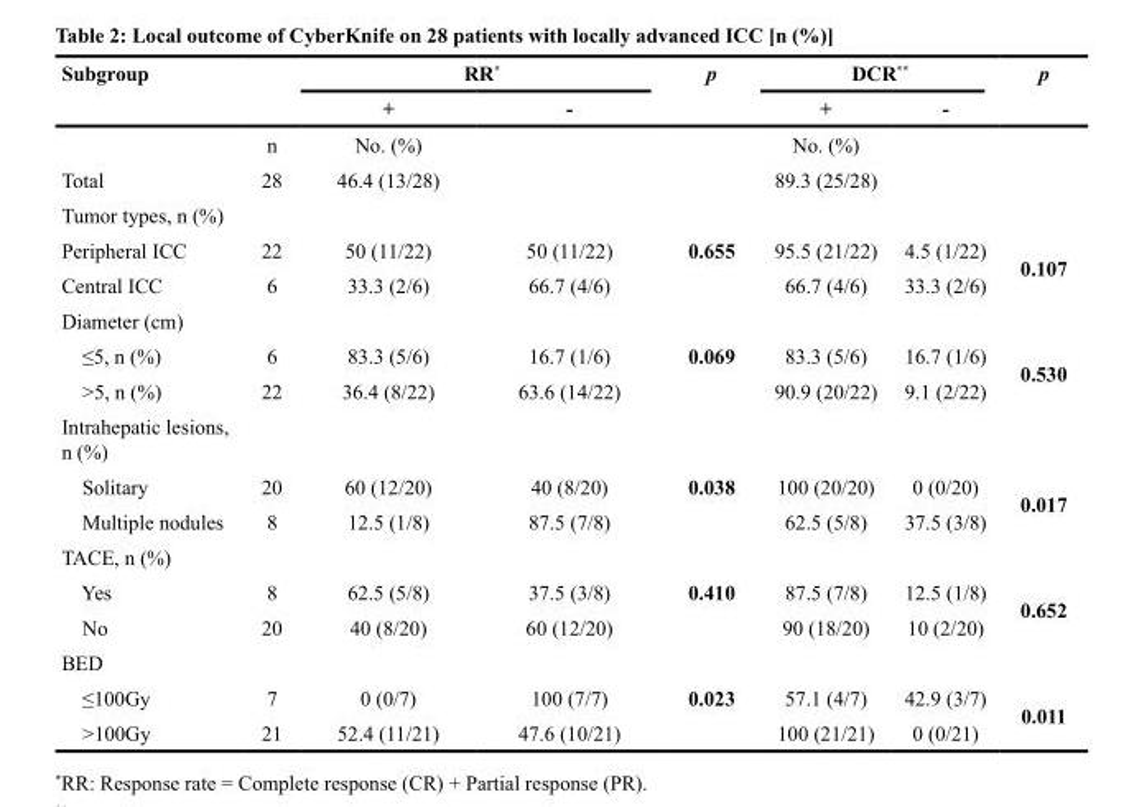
<table><thead><tr><td rowspan="2">Subgroup</td><td rowspan="2"></td><td colspan="2">RR*</td><td rowspan="2">p</td><td colspan="2">DCR**</td><td rowspan="2">p</td></tr><tr><td>+</td><td>-</td><td>+</td><td>-</td></tr></thead><tbody><tr><td></td><td>n</td><td>No. (%)</td><td></td><td></td><td>No. (%)</td><td></td><td></td></tr><tr><td>Total</td><td>28</td><td>46.4 (13/28)</td><td></td><td></td><td>89.3 (25/28)</td><td></td><td></td></tr><tr><td colspan="8">Tumor types, n (%)</td></tr><tr><td>Peripheral ICC</td><td>22</td><td>50 (11/22)</td><td>50 (11/22)</td><td>0.655</td><td>95.5 (21/22)</td><td>4.5 (1/22)</td><td rowspan="2">0.107</td></tr><tr><td>Central ICC</td><td>6</td><td>33.3 (2/6)</td><td>66.7 (4/6)</td><td></td><td>66.7 (4/6)</td><td>33.3 (2/6)</td></tr><tr><td colspan="8">Diameter (cm)</td></tr><tr><td>≤5, n (%)</td><td>6</td><td>83.3 (5/6)</td><td>16.7 (1/6)</td><td>0.069</td><td>83.3 (5/6)</td><td>16.7 (1/6)</td><td rowspan="2">0.530</td></tr><tr><td>&gt;5, n (%)</td><td>22</td><td>36.4 (8/22)</td><td>63.6 (14/22)</td><td></td><td>90.9 (20/22)</td><td>9.1 (2/22)</td></tr><tr><td colspan="8">Intrahepatic lesions, n (%)</td></tr><tr><td>Solitary</td><td>20</td><td>60 (12/20)</td><td>40 (8/20)</td><td>0.038</td><td>100 (20/20)</td><td>0 (0/20)</td><td rowspan="2">0.017</td></tr><tr><td>Multiple nodules</td><td>8</td><td>12.5 (1/8)</td><td>87.5 (7/8)</td><td></td><td>62.5 (5/8)</td><td>37.5 (3/8)</td></tr><tr><td colspan="8">TACE, n (%)</td></tr><tr><td>Yes</td><td>8</td><td>62.5 (5/8)</td><td>37.5 (3/8)</td><td>0.410</td><td>87.5 (7/8)</td><td>12.5 (1/8)</td><td rowspan="2">0.652</td></tr><tr><td>No</td><td>20</td><td>40 (8/20)</td><td>60 (12/20)</td><td></td><td>90 (18/20)</td><td>10 (2/20)</td></tr><tr><td colspan="8">BED</td></tr><tr><td>≤100Gy</td><td>7</td><td>0 (0/7)</td><td>100 (7/7)</td><td>0.023</td><td>57.1 (4/7)</td><td>42.9 (3/7)</td><td rowspan="2">0.011</td></tr><tr><td>&gt;100Gy</td><td>21</td><td>52.4 (11/21)</td><td>47.6 (10/21)</td><td></td><td>100 (21/21)</td><td>0 (0/21)</td></tr></tbody></table>